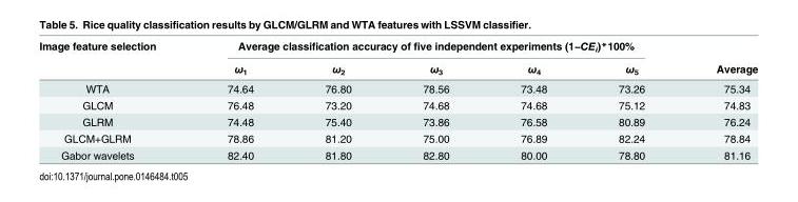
<table><thead><tr><td rowspan="2">Image feature selection</td><td colspan="5">Average classification accuracy of five independent experiments (1−CE<sub>i</sub>)*100%</td><td rowspan="2">Average</td></tr><tr><td>ω<sub>1</sub></td><td>ω<sub>2</sub></td><td>ω<sub>3</sub></td><td>ω<sub>4</sub></td><td>ω<sub>5</sub></td></tr></thead><tbody><tr><td>WTA</td><td>74.64</td><td>76.80</td><td>78.56</td><td>73.48</td><td>73.26</td><td>75.34</td></tr><tr><td>GLCM</td><td>76.48</td><td>73.20</td><td>74.68</td><td>74.68</td><td>75.12</td><td>74.83</td></tr><tr><td>GLRM</td><td>74.48</td><td>75.40</td><td>73.86</td><td>76.58</td><td>80.89</td><td>76.24</td></tr><tr><td>GLCM+GLRM</td><td>78.86</td><td>81.20</td><td>75.00</td><td>76.89</td><td>82.24</td><td>78.84</td></tr><tr><td>Gabor wavelets</td><td>82.40</td><td>81.80</td><td>82.80</td><td>80.00</td><td>78.80</td><td>81.16</td></tr></tbody></table>